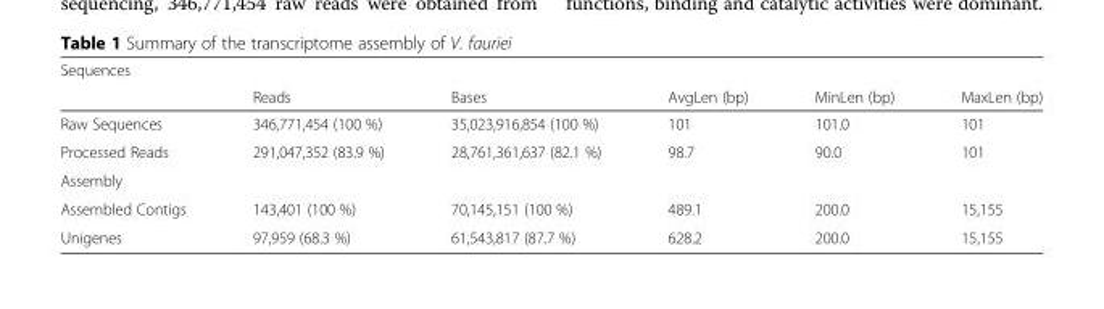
<table><thead><tr><td rowspan="2">Sequences</td><td rowspan="2">Reads</td><td rowspan="2">Bases</td><td rowspan="2">AvgLen (bp)</td><td rowspan="2">MinLen (bp)</td><td rowspan="2">MaxLen (bp)</td></tr><tr></tr></thead><tbody><tr><td>Raw Sequences</td><td>346,771,454 (100 %)</td><td>35,023,916,854 (100 %)</td><td>101</td><td>101.0</td><td>101</td></tr><tr><td>Processed Reads</td><td>291,047,352 (83.9 %)</td><td>28,761,361,637 (82.1 %)</td><td>98.7</td><td>90.0</td><td>101</td></tr><tr><td colspan="6">Assembly</td></tr><tr><td>Assembled Contigs</td><td>143,401 (100 %)</td><td>70,145,151 (100 %)</td><td>489.1</td><td>200.0</td><td>15,155</td></tr><tr><td>Unigenes</td><td>97,959 (68.3 %)</td><td>61,543,817 (87.7 %)</td><td>628.2</td><td>200.0</td><td>15,155</td></tr></tbody></table>